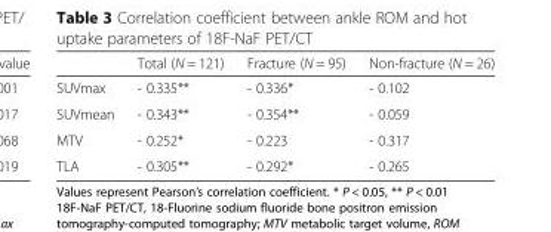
<table><thead><tr><td></td><td>Total (N = 121)</td><td>Fracture (N = 95)</td><td>Non-fracture (N = 26)</td></tr></thead><tbody><tr><td>SUVmax</td><td>- 0.335**</td><td>- 0.336*</td><td>- 0.102</td></tr><tr><td>SUVmean</td><td>- 0.343**</td><td>- 0.354**</td><td>- 0.059</td></tr><tr><td>MTV</td><td>- 0.252*</td><td>- 0.223</td><td>- 0.317</td></tr><tr><td>TLA</td><td>- 0.305**</td><td>- 0.292*</td><td>- 0.265</td></tr></tbody></table>